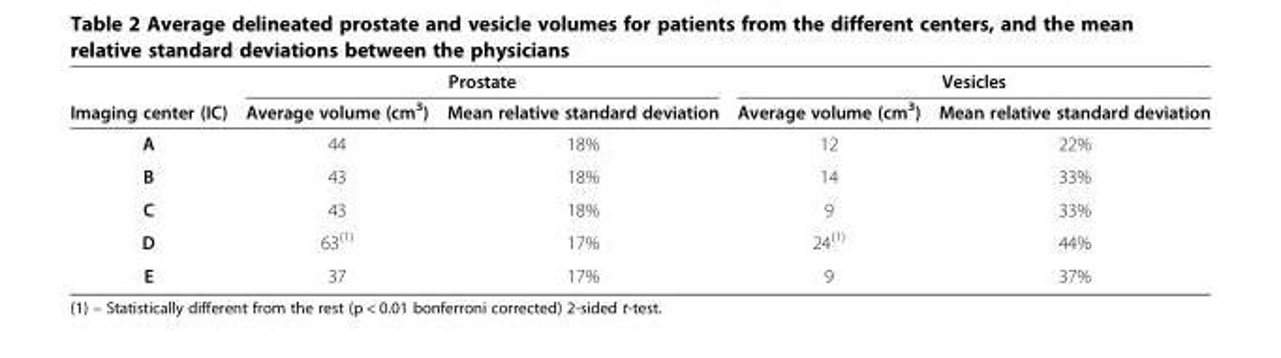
<table><thead><tr><td rowspan="2">Imaging center (IC)</td><td colspan="2">Prostate</td><td colspan="2">Vesicles</td></tr><tr><td>Average volume (cm<sup>3</sup>)</td><td>Mean relative standard deviation</td><td>Average volume (cm<sup>3</sup>)</td><td>Mean relative standard deviation</td></tr></thead><tbody><tr><td>A</td><td>44</td><td>18%</td><td>12</td><td>22%</td></tr><tr><td>B</td><td>43</td><td>18%</td><td>14</td><td>33%</td></tr><tr><td>C</td><td>43</td><td>18%</td><td>9</td><td>33%</td></tr><tr><td>D</td><td>63<sup>(1)</sup></td><td>17%</td><td>24<sup>(1)</sup></td><td>44%</td></tr><tr><td>E</td><td>37</td><td>17%</td><td>9</td><td>37%</td></tr></tbody></table>